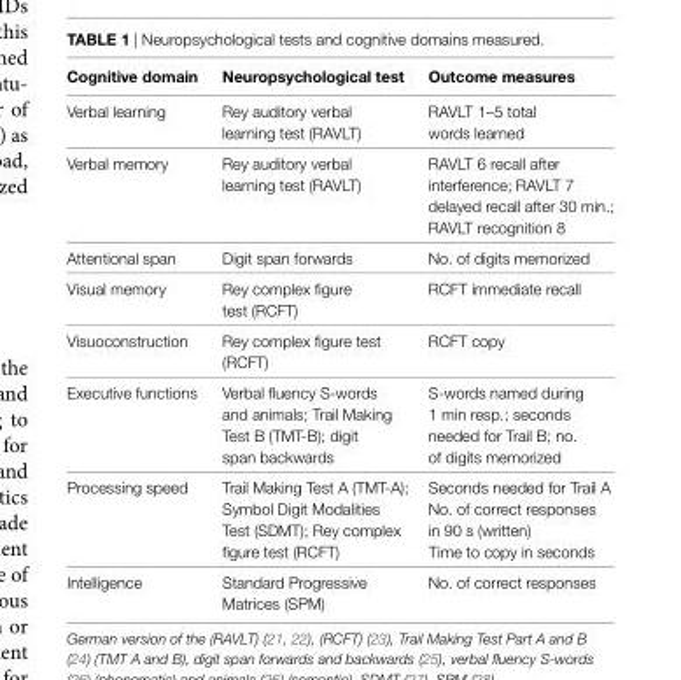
<table><thead><tr><td>cognitive domain</td><td>neuropsychological test</td><td>Outcome measures</td></tr></thead><tbody><tr><td>Verbal learning</td><td>Rey auditory verbal learning test (RAVLT)</td><td>RAVLT 1–5 total words learned</td></tr><tr><td>Verbal memory</td><td>Rey auditory verbal learning test (RAVLT)</td><td>RAVLT 6 recall after interference; RAVLT 7 delayed recall after 30 min.; RAVLT recognition 8</td></tr><tr><td>Attentional span</td><td>Digit span forwards</td><td>No. of digits memorized</td></tr><tr><td>Visual memory</td><td>Rey complex figure test (RCFT)</td><td>RCFT immediate recall</td></tr><tr><td>Visuoconstruction</td><td>Rey complex figure test (RCFT)</td><td>RCFT copy</td></tr><tr><td>Executive functions</td><td>Verbal fluency S-words and animals; Trail Making Test B (TMT-B); digit span backwards</td><td>S-words named during 1 min resp.; seconds needed for Trail B; no. of digits memorized</td></tr><tr><td>Processing speed</td><td>Trail Making Test A (TMT-A); Symbol Digit Modalities Test (SDMT); Rey complex figure test (RCFT)</td><td>Seconds needed for Trail A No. of correct responses in 90 s (written) Time to copy in seconds</td></tr><tr><td>Intelligence</td><td>Standard Progressive Matrices (SPM)</td><td>No. of correct responses</td></tr></tbody></table>